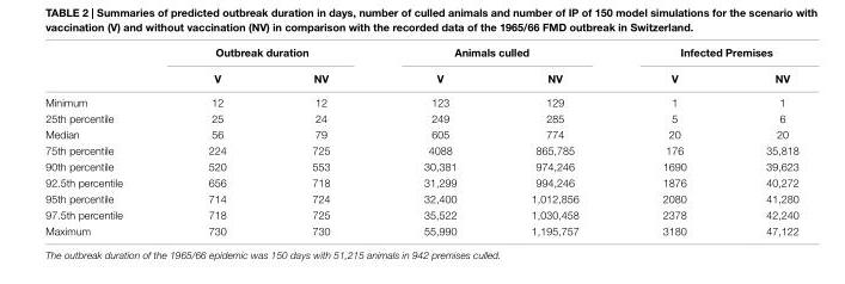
<table><thead><tr><td rowspan="2"></td><td colspan="2">Outbreak duration</td><td colspan="2">animals culled</td><td colspan="2">infected Premises</td></tr><tr><td>V</td><td>nV</td><td>V</td><td>nV</td><td>V</td><td>nV</td></tr></thead><tbody><tr><td>Minimum</td><td>12</td><td>12</td><td>123</td><td>129</td><td>1</td><td>1</td></tr><tr><td>25th percentile</td><td>25</td><td>24</td><td>249</td><td>285</td><td>5</td><td>6</td></tr><tr><td>Median</td><td>56</td><td>79</td><td>605</td><td>774</td><td>20</td><td>20</td></tr><tr><td>75th percentile</td><td>224</td><td>725</td><td>4088</td><td>865,785</td><td>176</td><td>35,818</td></tr><tr><td>90th percentile</td><td>520</td><td>553</td><td>30,381</td><td>974,246</td><td>1690</td><td>39,623</td></tr><tr><td>92.5th percentile</td><td>656</td><td>718</td><td>31,299</td><td>994,246</td><td>1876</td><td>40,272</td></tr><tr><td>95th percentile</td><td>714</td><td>724</td><td>32,400</td><td>1,012,856</td><td>2080</td><td>41,280</td></tr><tr><td>97.5th percentile</td><td>718</td><td>725</td><td>35,522</td><td>1,030,458</td><td>2378</td><td>42,240</td></tr><tr><td>Maximum</td><td>730</td><td>730</td><td>55,990</td><td>1,195,757</td><td>3180</td><td>47,122</td></tr></tbody></table>